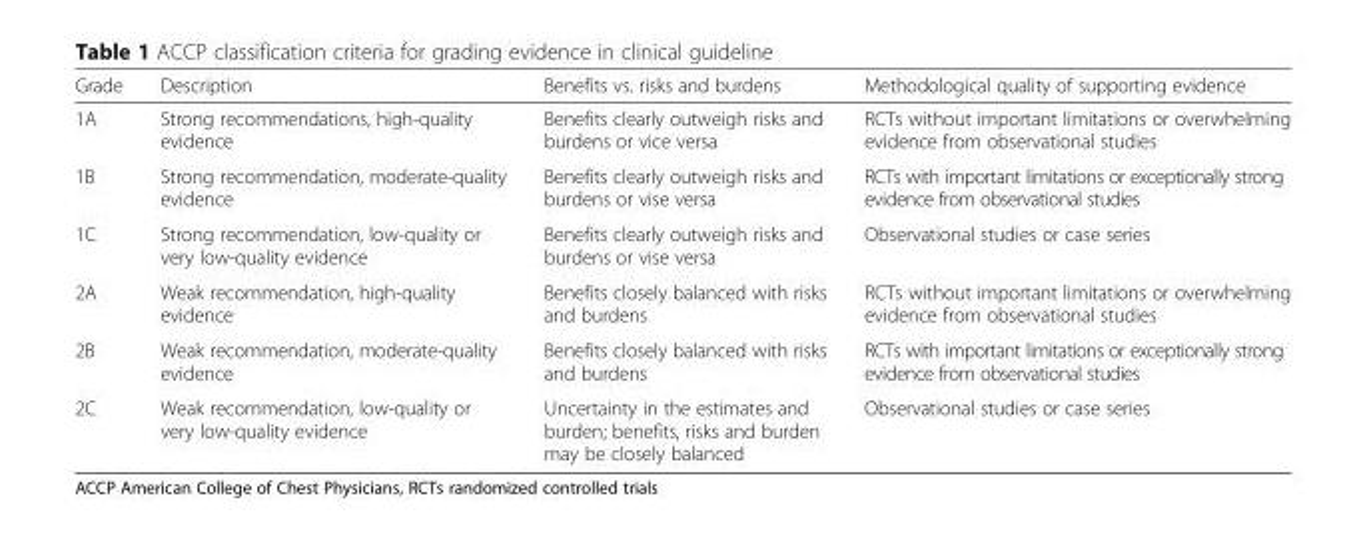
<table><thead><tr><td>Grade</td><td>Description</td><td>Benefits vs. risks and burdens</td><td>Methodological quality of supporting evidence</td></tr></thead><tbody><tr><td>1A</td><td>Strong recommendations, high-quality evidence</td><td>Benefits clearly outweigh risks and burdens or vice versa</td><td>RCTs without important limitations or overwhelming evidence from observational studies</td></tr><tr><td>1B</td><td>Strong recommendation, moderate-quality evidence</td><td>Benefits clearly outweigh risks and burdens or vise versa</td><td>RCTs with important limitations or exceptionally strong evidence from observational studies</td></tr><tr><td>1C</td><td>Strong recommendation, low-quality or very low-quality evidence</td><td>Benefits clearly outweigh risks and burdens or vise versa</td><td>Observational studies or case series</td></tr><tr><td>2A</td><td>Weak recommendation, high-quality evidence</td><td>Benefits closely balanced with risks and burdens</td><td>RCTs without important limitations or overwhelming evidence from observational studies</td></tr><tr><td>2B</td><td>Weak recommendation, moderate-quality evidence</td><td>Benefits closely balanced with risks and burdens</td><td>RCTs with important limitations or exceptionally strong evidence from observational studies</td></tr><tr><td>2C</td><td>Weak recommendation, low-quality or very low-quality evidence</td><td>Uncertainty in the estimates and burden; benefits, risks and burden may be closely balanced</td><td>Observational studies or case series</td></tr></tbody></table>